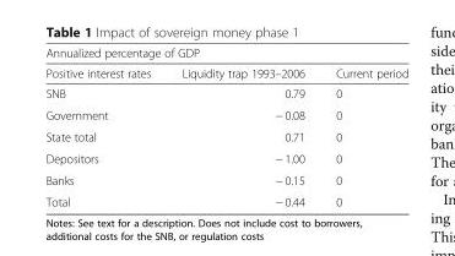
<table><thead><tr><td colspan="3">Annualized percentage of GDP</td></tr><tr><td>Positive interest rates</td><td>Liquidity trap 1993–2006</td><td>Current period</td></tr></thead><tbody><tr><td>SNB</td><td>0.79</td><td>0</td></tr><tr><td>Government</td><td>− 0.08</td><td>0</td></tr><tr><td>State total</td><td>0.71</td><td>0</td></tr><tr><td>Depositors</td><td>− 1.00</td><td>0</td></tr><tr><td>Banks</td><td>− 0.15</td><td>0</td></tr><tr><td>Total</td><td>− 0.44</td><td>0</td></tr></tbody></table>